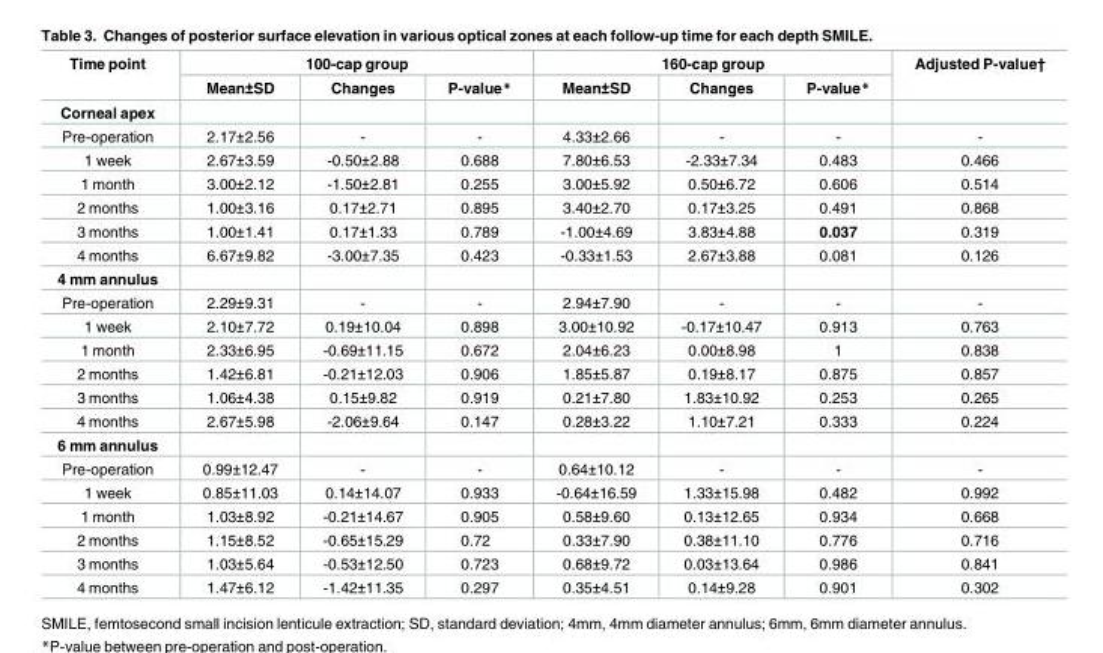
<table><thead><tr><td rowspan="2">Time point</td><td colspan="3">100-cap group</td><td colspan="3">160-cap group</td><td rowspan="2">Adjusted P-value†</td></tr><tr><td>Mean±SD</td><td>Changes</td><td>P-value*</td><td>Mean±SD</td><td>Changes</td><td>P-value*</td></tr></thead><tbody><tr><td colspan="8">Corneal apex</td></tr><tr><td>Pre-operation</td><td>2.17±2.56</td><td>-</td><td>-</td><td>4.33±2.66</td><td>-</td><td>-</td><td>-</td></tr><tr><td>1 week</td><td>2.67±3.59</td><td>-0.50±2.88</td><td>0.688</td><td>7.80±6.53</td><td>-2.33±7.34</td><td>0.483</td><td>0.466</td></tr><tr><td>1 month</td><td>3.00±2.12</td><td>-1.50±2.81</td><td>0.255</td><td>3.00±5.92</td><td>0.50±6.72</td><td>0.606</td><td>0.514</td></tr><tr><td>2 months</td><td>1.00±3.16</td><td>0.17±2.71</td><td>0.895</td><td>3.40±2.70</td><td>0.17±3.25</td><td>0.491</td><td>0.868</td></tr><tr><td>3 months</td><td>1.00±1.41</td><td>0.17±1.33</td><td>0.789</td><td>-1.00±4.69</td><td>3.83±4.88</td><td>0.037</td><td>0.319</td></tr><tr><td>4 months</td><td>6.67±9.82</td><td>-3.00±7.35</td><td>0.423</td><td>-0.33±1.53</td><td>2.67±3.88</td><td>0.081</td><td>0.126</td></tr><tr><td colspan="8">4 mm annulus</td></tr><tr><td>Pre-operation</td><td>2.29±9.31</td><td>-</td><td>-</td><td>2.94±7.90</td><td>-</td><td>-</td><td>-</td></tr><tr><td>1 week</td><td>2.10±7.72</td><td>0.19±10.04</td><td>0.898</td><td>3.00±10.92</td><td>-0.17±10.47</td><td>0.913</td><td>0.763</td></tr><tr><td>1 month</td><td>2.33±6.95</td><td>-0.69±11.15</td><td>0.672</td><td>2.04±6.23</td><td>0.00±8.98</td><td>1</td><td>0.838</td></tr><tr><td>2 months</td><td>1.42±6.81</td><td>-0.21±12.03</td><td>0.906</td><td>1.85±5.87</td><td>0.19±8.17</td><td>0.875</td><td>0.857</td></tr><tr><td>3 months</td><td>1.06±4.38</td><td>0.15±9.82</td><td>0.919</td><td>0.21±7.80</td><td>1.83±10.92</td><td>0.253</td><td>0.265</td></tr><tr><td>4 months</td><td>2.67±5.98</td><td>-2.06±9.64</td><td>0.147</td><td>0.28±3.22</td><td>1.10±7.21</td><td>0.333</td><td>0.224</td></tr><tr><td colspan="8">6 mm annulus</td></tr><tr><td>Pre-operation</td><td>0.99±12.47</td><td>-</td><td>-</td><td>0.64±10.12</td><td>-</td><td>-</td><td>-</td></tr><tr><td>1 week</td><td>0.85±11.03</td><td>0.14±14.07</td><td>0.933</td><td>-0.64±16.59</td><td>1.33±15.98</td><td>0.482</td><td>0.992</td></tr><tr><td>1 month</td><td>1.03±8.92</td><td>-0.21±14.67</td><td>0.905</td><td>0.58±9.60</td><td>0.13±12.65</td><td>0.934</td><td>0.668</td></tr><tr><td>2 months</td><td>1.15±8.52</td><td>-0.65±15.29</td><td>0.72</td><td>0.33±7.90</td><td>0.38±11.10</td><td>0.776</td><td>0.716</td></tr><tr><td>3 months</td><td>1.03±5.64</td><td>-0.53±12.50</td><td>0.723</td><td>0.68±9.72</td><td>0.03±13.64</td><td>0.986</td><td>0.841</td></tr><tr><td>4 months</td><td>1.47±6.12</td><td>-1.42±11.35</td><td>0.297</td><td>0.35±4.51</td><td>0.14±9.28</td><td>0.901</td><td>0.302</td></tr></tbody></table>